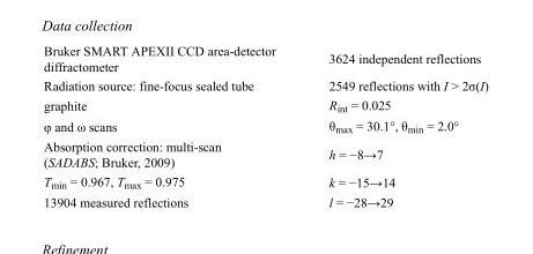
<table><tbody><tr><td>Bruker SMART APEXII CCD area-detector diffractometer</td><td>3624 independent reflections</td></tr><tr><td>Radiation source: fine-focus sealed tube</td><td>2549 reflections with I &gt; 2σ(I)</td></tr><tr><td>graphite</td><td>R<sub>int</sub> = 0.025</td></tr><tr><td>φ and ω scans</td><td>θ<sub>max</sub> = 30.1°, θ<sub>min</sub> = 2.0°</td></tr><tr><td>Absorption correction: multi-scan (SADABS; Bruker, 2009)</td><td>h = −8→7</td></tr><tr><td>T<sub>min</sub> = 0.967, T<sub>max</sub> = 0.975</td><td>k = −15→14</td></tr><tr><td>13904 measured reflections</td><td>l = −28→29</td></tr></tbody></table>